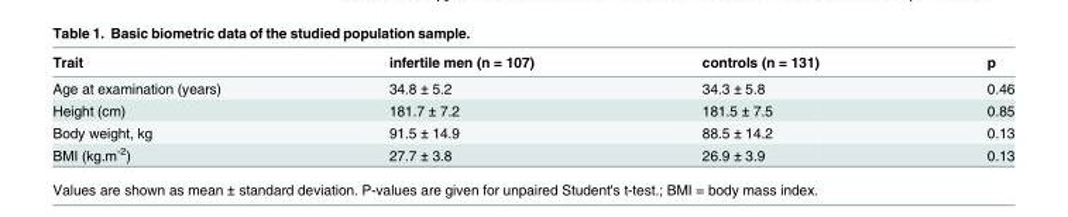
<table><thead><tr><td>Trait</td><td>infertile men (n = 107)</td><td>controls (n = 131)</td><td>p</td></tr></thead><tbody><tr><td>Age at examination (years)</td><td>34.8 ± 5.2</td><td>34.3 ± 5.8</td><td>0.46</td></tr><tr><td>Height (cm)</td><td>181.7 ± 7.2</td><td>181.5 ± 7.5</td><td>0.85</td></tr><tr><td>Body weight, kg</td><td>91.5 ± 14.9</td><td>88.5 ± 14.2</td><td>0.13</td></tr><tr><td>BMI (kg.m<sup>-2</sup>)</td><td>27.7 ± 3.8</td><td>26.9 ± 3.9</td><td>0.13</td></tr></tbody></table>